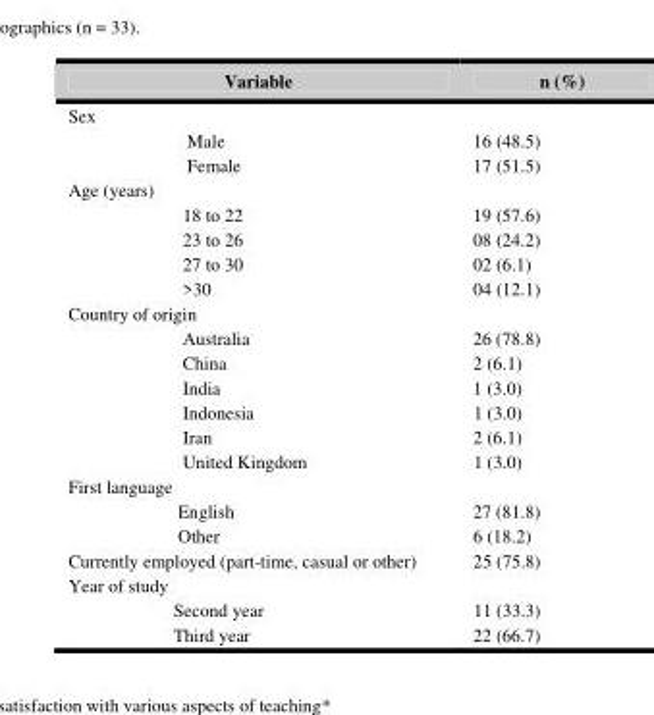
<table><thead><tr><td>Variable</td><td>n (%)</td></tr></thead><tbody><tr><td colspan="2">Sex</td></tr><tr><td>Male</td><td>16 (48.5)</td></tr><tr><td>Female</td><td>17 (51.5)</td></tr><tr><td colspan="2">Age (years)</td></tr><tr><td>18 to 22</td><td>19 (57.6)</td></tr><tr><td>23 to 26</td><td>08 (24.2)</td></tr><tr><td>27 to 30</td><td>02 (6.1)</td></tr><tr><td>&gt;30</td><td>04 (12.1)</td></tr><tr><td colspan="2">Country of origin</td></tr><tr><td>Australia</td><td>26 (78.8)</td></tr><tr><td>China</td><td>2 (6.1)</td></tr><tr><td>India</td><td>1 (3.0)</td></tr><tr><td>Indonesia</td><td>1 (3.0)</td></tr><tr><td>Iran</td><td>2 (6.1)</td></tr><tr><td>United Kingdom</td><td>1 (3.0)</td></tr><tr><td colspan="2">First language</td></tr><tr><td>English</td><td>27 (81.8)</td></tr><tr><td>Other</td><td>6 (18.2)</td></tr><tr><td>Currently employed (part-time, casual or other)</td><td>25 (75.8)</td></tr><tr><td colspan="2">Year of study</td></tr><tr><td>Second year</td><td>11 (33.3)</td></tr><tr><td>Third year</td><td>22 (66.7)</td></tr></tbody></table>